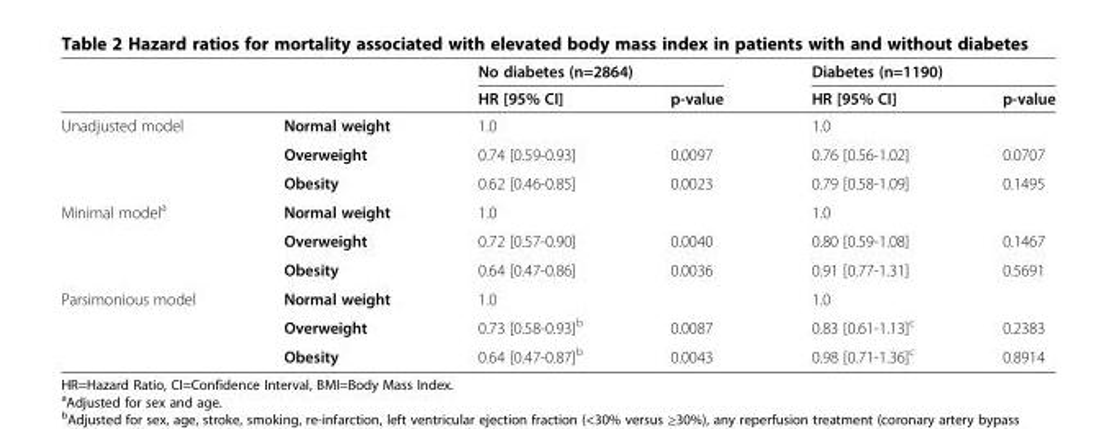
<table><thead><tr><td rowspan="2"></td><td rowspan="2"></td><td colspan="2">No diabetes (n=2864)</td><td colspan="2">Diabetes (n=1190)</td></tr><tr><td>HR [95% CI]</td><td>p-value</td><td>HR [95% CI]</td><td>p-value</td></tr></thead><tbody><tr><td rowspan="3">Unadjusted model</td><td>Normal weight</td><td>1.0</td><td></td><td>1.0</td><td></td></tr><tr><td>Overweight</td><td>0.74 [0.59-0.93]</td><td>0.0097</td><td>0.76 [0.56-1.02]</td><td>0.0707</td></tr><tr><td>Obesity</td><td>0.62 [0.46-0.85]</td><td>0.0023</td><td>0.79 [0.58-1.09]</td><td>0.1495</td></tr><tr><td rowspan="3">Minimal model<sup>a</sup></td><td>Normal weight</td><td>1.0</td><td></td><td>1.0</td><td></td></tr><tr><td>Overweight</td><td>0.72 [0.57-0.90]</td><td>0.0040</td><td>0.80 [0.59-1.08]</td><td>0.1467</td></tr><tr><td>Obesity</td><td>0.64 [0.47-0.86]</td><td>0.0036</td><td>0.91 [0.77-1.31]</td><td>0.5691</td></tr><tr><td rowspan="3">Parsimonious model</td><td>Normal weight</td><td>1.0</td><td></td><td>1.0</td><td></td></tr><tr><td>Overweight</td><td>0.73 [0.58-0.93]<sup>b</sup></td><td>0.0087</td><td>0.83 [0.61-1.13]<sup>c</sup></td><td>0.2383</td></tr><tr><td>Obesity</td><td>0.64 [0.47-0.87]<sup>b</sup></td><td>0.0043</td><td>0.98 [0.71-1.36]<sup>c</sup></td><td>0.8914</td></tr></tbody></table>